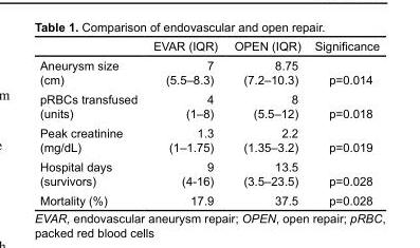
<table><thead><tr><td></td><td>EVAR (IQR)</td><td>OPEN (IQR)</td><td>Significance</td></tr></thead><tbody><tr><td>Aneurysm size (cm)</td><td>7 (5.5–8.3)</td><td>8.75 (7.2–10.3)</td><td>p=0.014</td></tr><tr><td>pRBCs transfused (units)</td><td>4 (1–8)</td><td>8 (5.5–12)</td><td>p=0.018</td></tr><tr><td>Peak creatinine (mg/dL)</td><td>1.3 (1–1.75)</td><td>2.2 (1.35–3.2)</td><td>p=0.019</td></tr><tr><td>Hospital days (survivors)</td><td>9 (4-16)</td><td>13.5 (3.5–23.5)</td><td>p=0.028</td></tr><tr><td>Mortality (%)</td><td>17.9</td><td>37.5</td><td>p=0.028</td></tr></tbody></table>